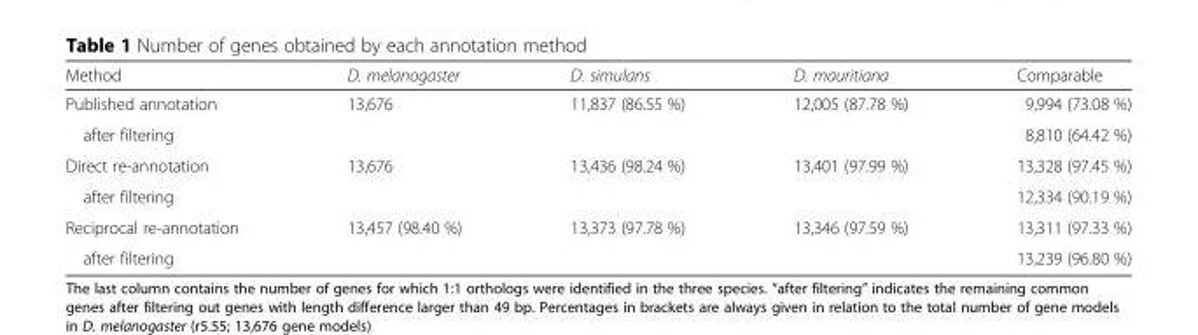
<table><thead><tr><td>Method</td><td>D. melanogaster</td><td>D. simulans</td><td>D. mauritiana</td><td>Comparable</td></tr></thead><tbody><tr><td>Published annotation</td><td>13,676</td><td>11,837 (86.55 %)</td><td>12,005 (87.78 %)</td><td>9,994 (73.08 %)</td></tr><tr><td>after filtering</td><td></td><td></td><td></td><td>8,810 (64.42 %)</td></tr><tr><td>Direct re-annotation</td><td>13,676</td><td>13,436 (98.24 %)</td><td>13,401 (97.99 %)</td><td>13,328 (97.45 %)</td></tr><tr><td>after filtering</td><td></td><td></td><td></td><td>12,334 (90.19 %)</td></tr><tr><td>Reciprocal re-annotation</td><td>13,457 (98.40 %)</td><td>13,373 (97.78 %)</td><td>13,346 (97.59 %)</td><td>13,311 (97.33 %)</td></tr><tr><td>after filtering</td><td></td><td></td><td></td><td>13,239 (96.80 %)</td></tr></tbody></table>